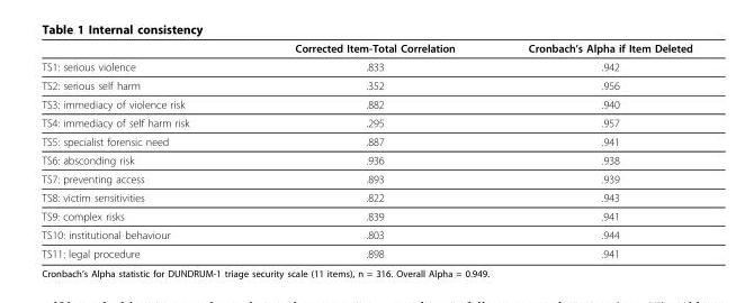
<table><thead><tr><td></td><td>Corrected Item-Total Correlation</td><td>Cronbach’s Alpha if Item Deleted</td></tr></thead><tbody><tr><td>TS1: serious violence</td><td>.833</td><td>.942</td></tr><tr><td>TS2: serious self harm</td><td>.352</td><td>.956</td></tr><tr><td>TS3: immediacy of violence risk</td><td>.882</td><td>.940</td></tr><tr><td>TS4: immediacy of self harm risk</td><td>.295</td><td>.957</td></tr><tr><td>TS5: specialist forensic need</td><td>.887</td><td>.941</td></tr><tr><td>TS6: absconding risk</td><td>.936</td><td>.938</td></tr><tr><td>TS7: preventing access</td><td>.893</td><td>.939</td></tr><tr><td>TS8: victim sensitivities</td><td>.822</td><td>.943</td></tr><tr><td>TS9: complex risks</td><td>.839</td><td>.941</td></tr><tr><td>TS10: institutional behaviour</td><td>.803</td><td>.944</td></tr><tr><td>TS11: legal procedure</td><td>.898</td><td>.941</td></tr></tbody></table>